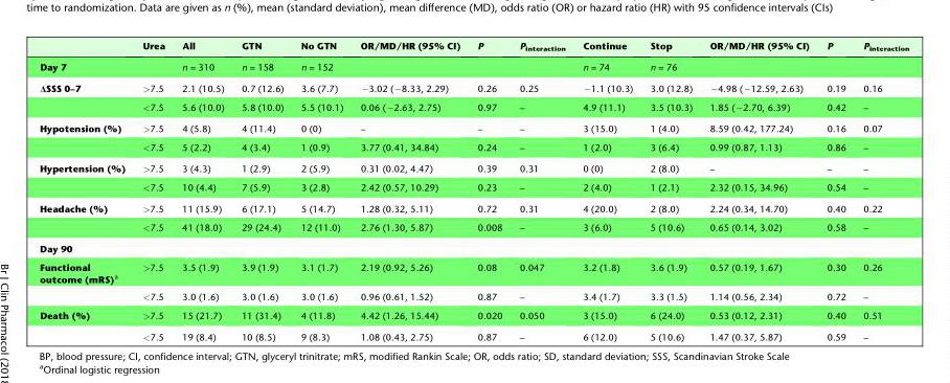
<table><thead><tr><td></td><td>Urea</td><td>All</td><td>GTN</td><td>No GTN</td><td>OR/MD/HR (95% CI)</td><td>P</td><td>P<sub>interaction</sub></td><td>Continue</td><td>Stop</td><td>OR/MD/HR (95% CI)</td><td>P</td><td>P<sub>interaction</sub></td></tr></thead><tbody><tr><td>Day 7</td><td></td><td>n = 310</td><td>n = 158</td><td>n = 152</td><td></td><td></td><td></td><td>n = 74</td><td>n = 76</td><td></td><td></td><td></td></tr><tr><td rowspan="2">ΔSSS 0–7</td><td>&gt;7.5</td><td>2.1 (10.5)</td><td>0.7 (12.6)</td><td>3.6 (7.7)</td><td>−3.02 (−8.33, 2.29)</td><td>0.26</td><td>0.25</td><td>−1.1 (10.3)</td><td>3.0 (12.8)</td><td>−4.98 (−12.59, 2.63)</td><td>0.19</td><td>0.16</td></tr><tr><td>&lt;7.5</td><td>5.6 (10.0)</td><td>5.8 (10.0)</td><td>5.5 (10.1)</td><td>0.06 (−2.63, 2.75)</td><td>0.97</td><td>–</td><td>4.9 (11.1)</td><td>3.5 (10.3)</td><td>1.85 (−2.70, 6.39)</td><td>0.42</td><td>–</td></tr><tr><td rowspan="2">Hypotension (%)</td><td>&gt;7.5</td><td>4 (5.8)</td><td>4 (11.4)</td><td>0 (0)</td><td>–</td><td>–</td><td>–</td><td>3 (15.0)</td><td>1 (4.0)</td><td>8.59 (0.42, 177.24)</td><td>0.16</td><td>0.07</td></tr><tr><td>&lt;7.5</td><td>5 (2.2)</td><td>4 (3.4)</td><td>1 (0.9)</td><td>3.77 (0.41, 34.84)</td><td>0.24</td><td>–</td><td>1 (2.0)</td><td>3 (6.4)</td><td>0.99 (0.87, 1.13)</td><td>0.86</td><td>–</td></tr><tr><td rowspan="2">Hypertension (%)</td><td>&gt;7.5</td><td>3 (4.3)</td><td>1 (2.9)</td><td>2 (5.9)</td><td>0.31 (0.02, 4.47)</td><td>0.39</td><td>0.31</td><td>0 (0)</td><td>2 (8.0)</td><td>–</td><td>–</td><td>–</td></tr><tr><td>&lt;7.5</td><td>10 (4.4)</td><td>7 (5.9)</td><td>3 (2.8)</td><td>2.42 (0.57, 10.29)</td><td>0.23</td><td>–</td><td>2 (4.0)</td><td>1 (2.1)</td><td>2.32 (0.15, 34.96)</td><td>0.54</td><td>–</td></tr><tr><td rowspan="2">Headache (%)</td><td>&gt;7.5</td><td>11 (15.9)</td><td>6 (17.1)</td><td>5 (14.7)</td><td>1.28 (0.32, 5.11)</td><td>0.72</td><td>0.31</td><td>4 (20.0)</td><td>2 (8.0)</td><td>2.24 (0.34, 14.70)</td><td>0.40</td><td>0.22</td></tr><tr><td>&lt;7.5</td><td>41 (18.0)</td><td>29 (24.4)</td><td>12 (11.0)</td><td>2.76 (1.30, 5.87)</td><td>0.008</td><td>–</td><td>3 (6.0)</td><td>5 (10.6)</td><td>0.65 (0.14, 3.02)</td><td>0.58</td><td>–</td></tr><tr><td colspan="13">Day 90</td></tr><tr><td rowspan="2">Functional outcome (mRS)a</td><td>&gt;7.5</td><td>3.5 (1.9)</td><td>3.9 (1.9)</td><td>3.1 (1.7)</td><td>2.19 (0.92, 5.26)</td><td>0.08</td><td>0.047</td><td>3.2 (1.8)</td><td>3.6 (1.9)</td><td>0.57 (0.19, 1.67)</td><td>0.30</td><td>0.26</td></tr><tr><td>&lt;7.5</td><td>3.0 (1.6)</td><td>3.0 (1.6)</td><td>3.0 (1.6)</td><td>0.96 (0.61, 1.52)</td><td>0.87</td><td>–</td><td>3.4 (1.7)</td><td>3.3 (1.5)</td><td>1.14 (0.56, 2.34)</td><td>0.72</td><td>–</td></tr><tr><td rowspan="2">Death (%)</td><td>&gt;7.5</td><td>15 (21.7)</td><td>11 (31.4)</td><td>4 (11.8)</td><td>4.42 (1.26, 15.44)</td><td>0.020</td><td>0.050</td><td>3 (15.0)</td><td>6 (24.0)</td><td>0.53 (0.12, 2.31)</td><td>0.40</td><td>0.51</td></tr><tr><td>&lt;7.5</td><td>19 (8.4)</td><td>10 (8.5)</td><td>9 (8.3)</td><td>1.08 (0.43, 2.75)</td><td>0.87</td><td>–</td><td>6 (12.0)</td><td>5 (10.6)</td><td>1.47 (0.37, 5.87)</td><td>0.59</td><td>–</td></tr></tbody></table>